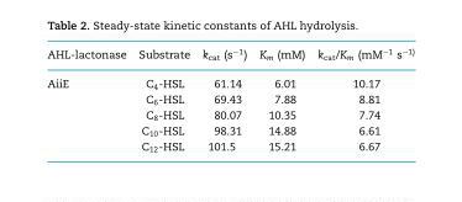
<table><thead><tr><td>AHL-lactonase</td><td>Substrate</td><td>k<sub>cat</sub> (s<sup>−1</sup>)</td><td>K<sub>m</sub> (mM)</td><td>k<sub>cat</sub>/K<sub>m</sub> (mM<sup>−1</sup> s<sup>−1)</sup></td></tr></thead><tbody><tr><td rowspan="5">AiiE</td><td>C<sub>4</sub>-HSL</td><td>61.14</td><td>6.01</td><td>10.17</td></tr><tr><td>C<sub>6</sub>-HSL</td><td>69.43</td><td>7.88</td><td>8.81</td></tr><tr><td>C<sub>8</sub>-HSL</td><td>80.07</td><td>10.35</td><td>7.74</td></tr><tr><td>C<sub>10</sub>-HSL</td><td>98.31</td><td>14.88</td><td>6.61</td></tr><tr><td>C<sub>12</sub>-HSL</td><td>101.5</td><td>15.21</td><td>6.67</td></tr></tbody></table>